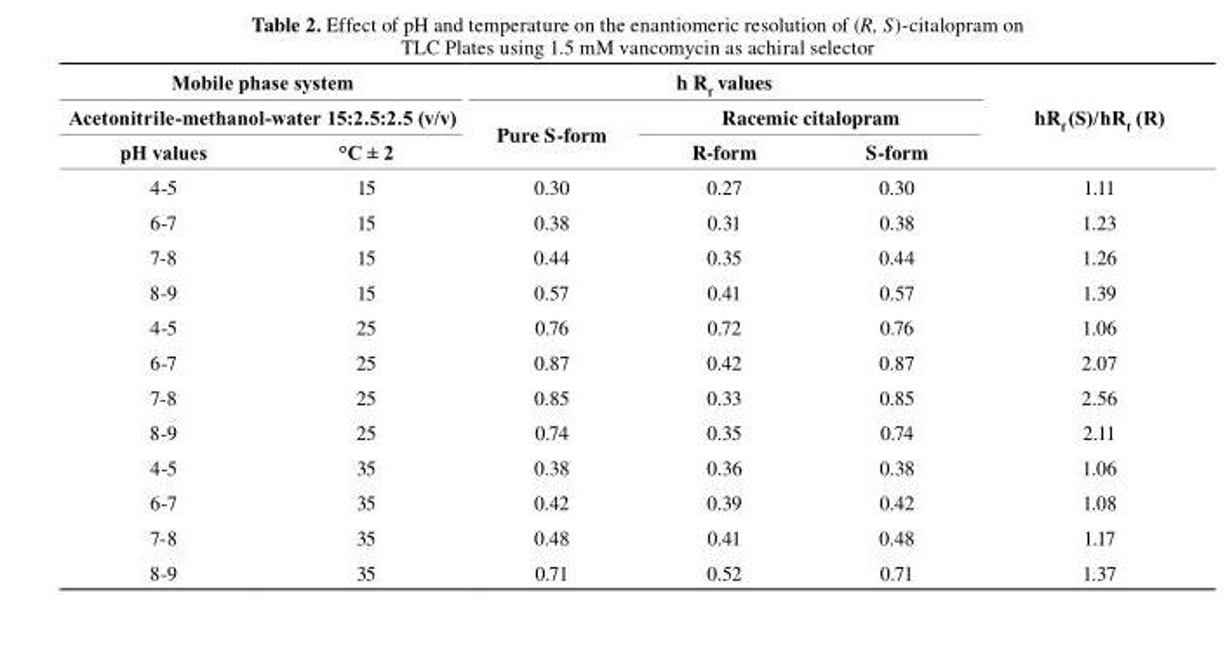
<table><thead><tr><td rowspan="2" colspan="2">Mobile phase system Acetonitrile-methanol-water 15:2.5:2.5 (v/v)</td><td colspan="3">h r<sub>f</sub> values</td><td rowspan="3">hr<sub>f</sub> (S)/hR<sub>f</sub> (R)</td></tr><tr><td rowspan="2">Pure s-form</td><td colspan="2">racemic citalopram</td></tr><tr><td>pH values</td><td>°C ± 2</td><td>r-form</td><td>s-form</td></tr></thead><tbody><tr><td>4-5</td><td>15</td><td>0.30</td><td>0.27</td><td>0.30</td><td>1.11</td></tr><tr><td>6-7</td><td>15</td><td>0.38</td><td>0.31</td><td>0.38</td><td>1.23</td></tr><tr><td>7-8</td><td>15</td><td>0.44</td><td>0.35</td><td>0.44</td><td>1.26</td></tr><tr><td>8-9</td><td>15</td><td>0.57</td><td>0.41</td><td>0.57</td><td>1.39</td></tr><tr><td>4-5</td><td>25</td><td>0.76</td><td>0.72</td><td>0.76</td><td>1.06</td></tr><tr><td>6-7</td><td>25</td><td>0.87</td><td>0.42</td><td>0.87</td><td>2.07</td></tr><tr><td>7-8</td><td>25</td><td>0.85</td><td>0.33</td><td>0.85</td><td>2.56</td></tr><tr><td>8-9</td><td>25</td><td>0.74</td><td>0.35</td><td>0.74</td><td>2.11</td></tr><tr><td>4-5</td><td>35</td><td>0.38</td><td>0.36</td><td>0.38</td><td>1.06</td></tr><tr><td>6-7</td><td>35</td><td>0.42</td><td>0.39</td><td>0.42</td><td>1.08</td></tr><tr><td>7-8</td><td>35</td><td>0.48</td><td>0.41</td><td>0.48</td><td>1.17</td></tr><tr><td>8-9</td><td>35</td><td>0.71</td><td>0.52</td><td>0.71</td><td>1.37</td></tr></tbody></table>